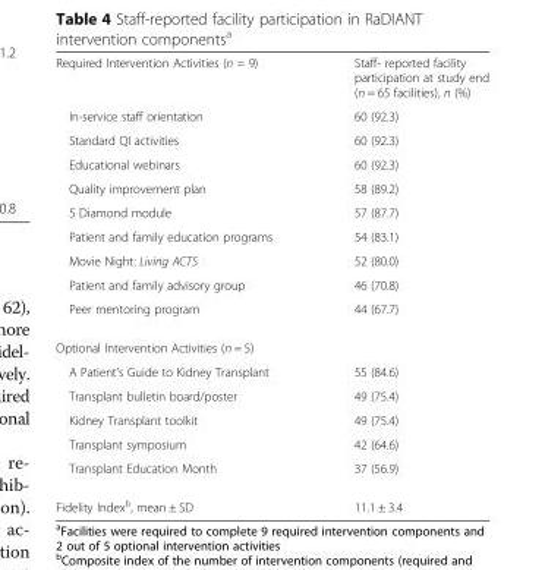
<table><tbody><tr><td>Required Intervention Activities (n = 9)</td><td>Staff- reported facility participation at study end (n = 65 facilities), n (%)</td></tr><tr><td>In-service staff orientation</td><td>60 (92.3)</td></tr><tr><td>Standard QI activities</td><td>60 (92.3)</td></tr><tr><td>Educational webinars</td><td>60 (92.3)</td></tr><tr><td>Quality improvement plan</td><td>58 (89.2)</td></tr><tr><td>5 Diamond module</td><td>57 (87.7)</td></tr><tr><td>Patient and family education programs</td><td>54 (83.1)</td></tr><tr><td>Movie Night: Living ACTS</td><td>52 (80.0)</td></tr><tr><td>Patient and family advisory group</td><td>46 (70.8)</td></tr><tr><td>Peer mentoring program</td><td>44 (67.7)</td></tr><tr><td colspan="2">Optional Intervention Activities (n = 5)</td></tr><tr><td>A Patient’s Guide to Kidney Transplant</td><td>55 (84.6)</td></tr><tr><td>Transplant bulletin board/poster</td><td>49 (75.4)</td></tr><tr><td>Kidney Transplant toolkit</td><td>49 (75.4)</td></tr><tr><td>Transplant symposium</td><td>42 (64.6)</td></tr><tr><td>Transplant Education Month</td><td>37 (56.9)</td></tr><tr><td>Fidelity Index<sup>b</sup>, mean ± SD</td><td>11.1 ± 3.4</td></tr></tbody></table>